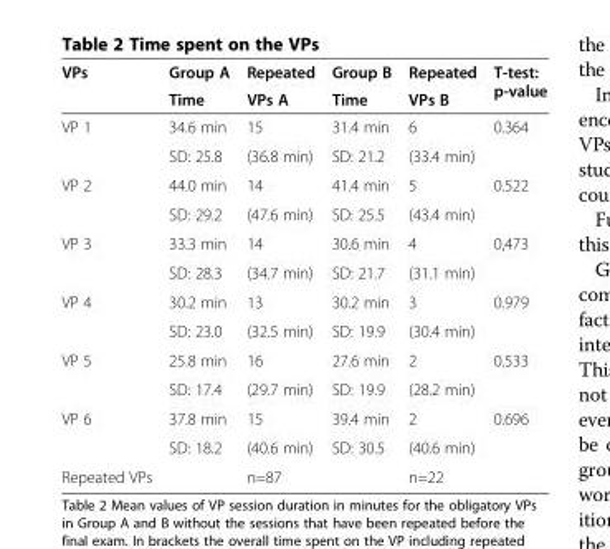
<table><thead><tr><td rowspan="2">VPs</td><td rowspan="2">Group A Time</td><td rowspan="2">Repeated VPs A</td><td rowspan="2">Group B Time</td><td rowspan="2">Repeated VPs B</td><td rowspan="2">T-test: p-value</td></tr><tr></tr></thead><tbody><tr><td rowspan="2">VP 1</td><td>34.6 min</td><td>15</td><td>31.4 min</td><td>6</td><td rowspan="2">0.364</td></tr><tr><td>SD: 25.8</td><td>(36.8 min)</td><td>SD: 21.2</td><td>(33.4 min)</td></tr><tr><td rowspan="2">VP 2</td><td>44.0 min</td><td>14</td><td>41.4 min</td><td>5</td><td rowspan="2">0.522</td></tr><tr><td>SD: 29.2</td><td>(47.6 min)</td><td>SD: 25.5</td><td>(43.4 min)</td></tr><tr><td rowspan="2">VP 3</td><td>33.3 min</td><td>14</td><td>30.6 min</td><td>4</td><td rowspan="2">0,473</td></tr><tr><td>SD: 28.3</td><td>(34.7 min)</td><td>SD: 21.7</td><td>(31.1 min)</td></tr><tr><td rowspan="2">VP 4</td><td>30.2 min</td><td>13</td><td>30.2 min</td><td>3</td><td rowspan="2">0.979</td></tr><tr><td>SD: 23.0</td><td>(32.5 min)</td><td>SD: 19.9</td><td>(30.4 min)</td></tr><tr><td rowspan="2">VP 5</td><td>25.8 min</td><td>16</td><td>27.6 min</td><td>2</td><td rowspan="2">0.533</td></tr><tr><td>SD: 17.4</td><td>(29.7 min)</td><td>SD: 19.9</td><td>(28.2 min)</td></tr><tr><td rowspan="2">VP 6</td><td>37.8 min</td><td>15</td><td>39.4 min</td><td>2</td><td>0.696</td></tr><tr><td>SD: 18.2</td><td>(40.6 min)</td><td>SD: 30.5</td><td>(40.6 min)</td><td></td></tr><tr><td>Repeated VPs</td><td></td><td>n=87</td><td></td><td>n=22</td><td></td></tr></tbody></table>